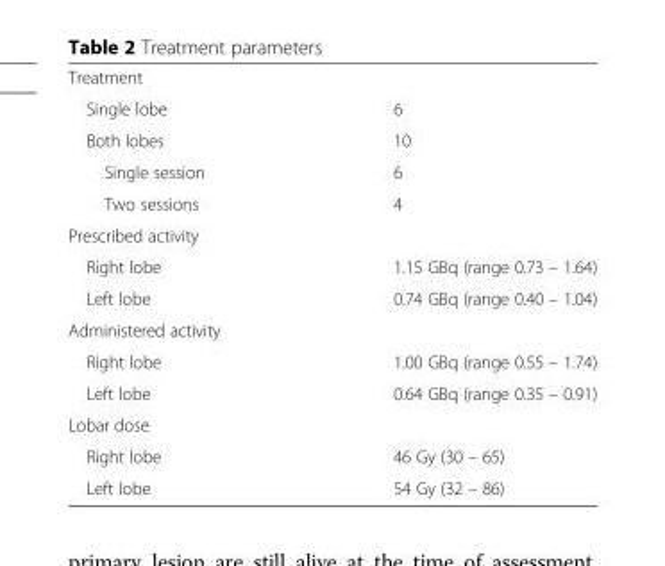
<table><tbody><tr><td colspan="2">Treatment</td></tr><tr><td>Single lobe</td><td>6</td></tr><tr><td>Both lobes</td><td>10</td></tr><tr><td>Single session</td><td>6</td></tr><tr><td>Two sessions</td><td>4</td></tr><tr><td colspan="2">Prescribed activity</td></tr><tr><td>Right lobe</td><td>1.15 GBq (range 0.73 – 1.64)</td></tr><tr><td>Left lobe</td><td>0.74 GBq (range 0.40 – 1.04)</td></tr><tr><td colspan="2">Administered activity</td></tr><tr><td>Right lobe</td><td>1.00 GBq (range 0.55 – 1.74)</td></tr><tr><td>Left lobe</td><td>0.64 GBq (range 0.35 – 0.91)</td></tr><tr><td colspan="2">Lobar dose</td></tr><tr><td>Right lobe</td><td>46 Gy (30 – 65)</td></tr><tr><td>Left lobe</td><td>54 Gy (32 – 86)</td></tr></tbody></table>